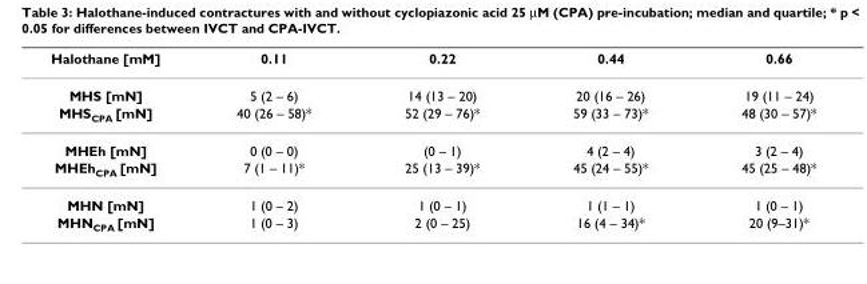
<table><thead><tr><td>Halothane [mM]</td><td>0.11</td><td>0.22</td><td>0.44</td><td>0.66</td></tr></thead><tbody><tr><td>MHS [mN]</td><td>5 (2 – 6)</td><td>14 (13 – 20)</td><td>20 (16 – 26)</td><td>19 (11 – 24)</td></tr><tr><td>MHS<sub>CPA</sub> [mN]</td><td>40 (26 – 58)*</td><td>52 (29 – 76)*</td><td>59 (33 – 73)*</td><td>48 (30 – 57)*</td></tr><tr><td>MHEh [mN]</td><td>0 (0 – 0)</td><td>(0 – 1)</td><td>4 (2 – 4)</td><td>3 (2 – 4)</td></tr><tr><td>MHEh<sub>CPA</sub> [mN]</td><td>7 (1 – 11)*</td><td>25 (13 – 39)*</td><td>45 (24 – 55)*</td><td>45 (25 – 48)*</td></tr><tr><td>MHN [mN]</td><td>1 (0 – 2)</td><td>1 (0 – 1)</td><td>1 (1 – 1)</td><td>1 (0 – 1)</td></tr><tr><td>MHN<sub>CPA</sub> [mN]</td><td>1 (0 – 3)</td><td>2 (0 – 25)</td><td>16 (4 – 34)*</td><td>20 (9–31)*</td></tr></tbody></table>